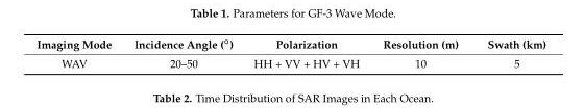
<table><thead><tr><td>Imaging Mode</td><td>Incidence Angle (◦)</td><td>Polarization</td><td>Resolution (m)</td><td>Swath (km)</td></tr></thead><tbody><tr><td>WAV</td><td>20–50</td><td>HH + VV + HV + VH</td><td>10</td><td>5</td></tr></tbody></table>